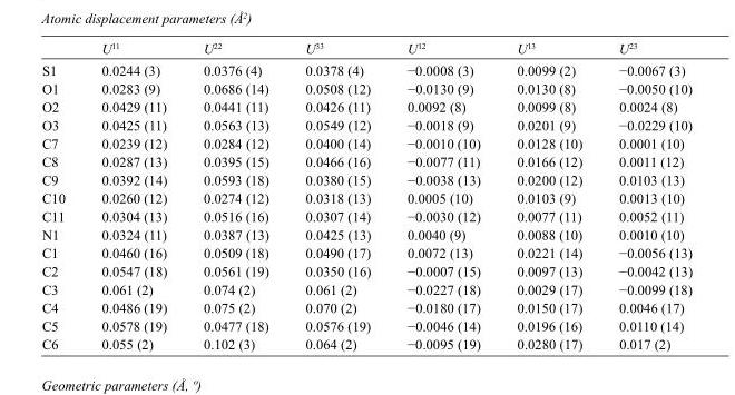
<table><thead><tr><td></td><td>U<sup>11</sup></td><td>U<sup>22</sup></td><td>U<sup>33</sup></td><td>U<sup>12</sup></td><td>U<sup>13</sup></td><td>U<sup>23</sup></td></tr></thead><tbody><tr><td>S1</td><td>0.0244 (3)</td><td>0.0376 (4)</td><td>0.0378 (4)</td><td>−0.0008 (3)</td><td>0.0099 (2)</td><td>−0.0067 (3)</td></tr><tr><td>O1</td><td>0.0283 (9)</td><td>0.0686 (14)</td><td>0.0508 (12)</td><td>−0.0130 (9)</td><td>0.0130 (8)</td><td>−0.0050 (10)</td></tr><tr><td>O2</td><td>0.0429 (11)</td><td>0.0441 (11)</td><td>0.0426 (11)</td><td>0.0092 (8)</td><td>0.0099 (8)</td><td>0.0024 (8)</td></tr><tr><td>O3</td><td>0.0425 (11)</td><td>0.0563 (13)</td><td>0.0549 (12)</td><td>−0.0018 (9)</td><td>0.0201 (9)</td><td>−0.0229 (10)</td></tr><tr><td>C7</td><td>0.0239 (12)</td><td>0.0284 (12)</td><td>0.0400 (14)</td><td>−0.0010 (10)</td><td>0.0128 (10)</td><td>0.0001 (10)</td></tr><tr><td>C8</td><td>0.0287 (13)</td><td>0.0395 (15)</td><td>0.0466 (16)</td><td>−0.0077 (11)</td><td>0.0166 (12)</td><td>0.0011 (12)</td></tr><tr><td>C9</td><td>0.0392 (14)</td><td>0.0593 (18)</td><td>0.0380 (15)</td><td>−0.0038 (13)</td><td>0.0200 (12)</td><td>0.0103 (13)</td></tr><tr><td>C10</td><td>0.0260 (12)</td><td>0.0274 (12)</td><td>0.0318 (13)</td><td>0.0005 (10)</td><td>0.0103 (9)</td><td>0.0013 (10)</td></tr><tr><td>C11</td><td>0.0304 (13)</td><td>0.0516 (16)</td><td>0.0307 (14)</td><td>−0.0030 (12)</td><td>0.0077 (11)</td><td>0.0052 (11)</td></tr><tr><td>N1</td><td>0.0324 (11)</td><td>0.0387 (13)</td><td>0.0425 (13)</td><td>0.0040 (9)</td><td>0.0088 (10)</td><td>0.0010 (10)</td></tr><tr><td>C1</td><td>0.0460 (16)</td><td>0.0509 (18)</td><td>0.0490 (17)</td><td>0.0072 (13)</td><td>0.0221 (14)</td><td>−0.0056 (13)</td></tr><tr><td>C2</td><td>0.0547 (18)</td><td>0.0561 (19)</td><td>0.0350 (16)</td><td>−0.0007 (15)</td><td>0.0097 (13)</td><td>−0.0042 (13)</td></tr><tr><td>C3</td><td>0.061 (2)</td><td>0.074 (2)</td><td>0.061 (2)</td><td>−0.0227 (18)</td><td>0.0029 (17)</td><td>−0.0099 (18)</td></tr><tr><td>C4</td><td>0.0486 (19)</td><td>0.075 (2)</td><td>0.070 (2)</td><td>−0.0180 (17)</td><td>0.0150 (17)</td><td>0.0046 (17)</td></tr><tr><td>C5</td><td>0.0578 (19)</td><td>0.0477 (18)</td><td>0.0576 (19)</td><td>−0.0046 (14)</td><td>0.0196 (16)</td><td>0.0110 (14)</td></tr><tr><td>C6</td><td>0.055 (2)</td><td>0.102 (3)</td><td>0.064 (2)</td><td>−0.0095 (19)</td><td>0.0280 (17)</td><td>0.017 (2)</td></tr></tbody></table>